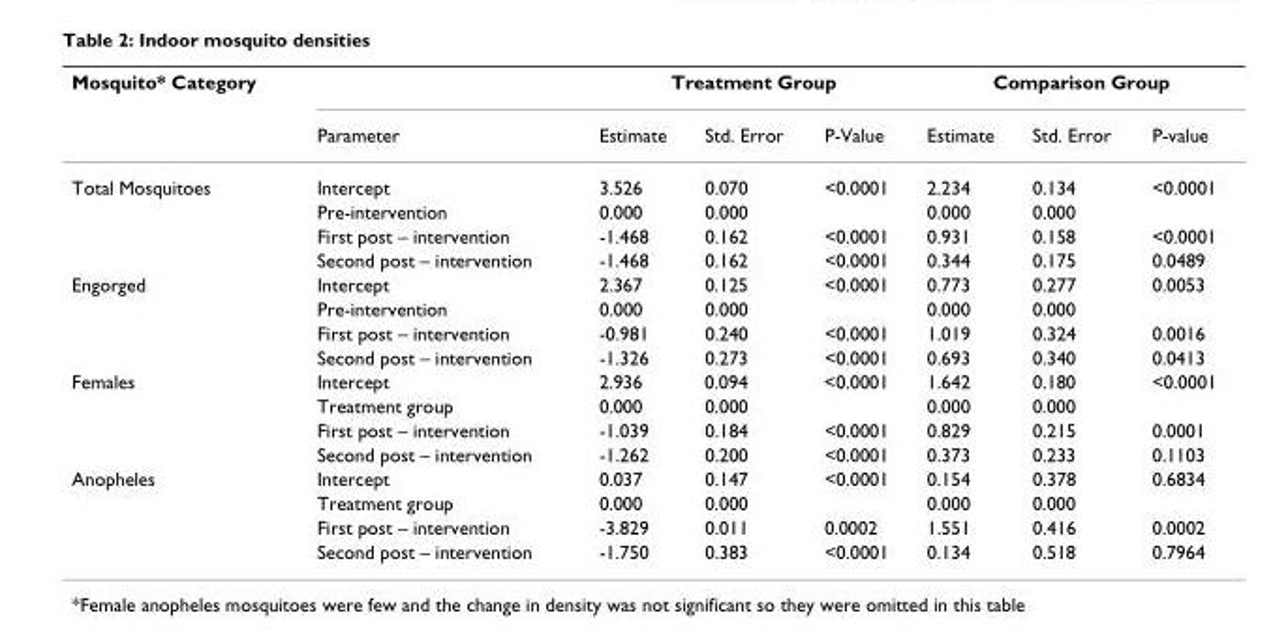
<table><thead><tr><td rowspan="2">Mosquito* Category</td><td rowspan="2">Parameter</td><td colspan="3">Treatment Group</td><td colspan="3">Comparison Group</td></tr><tr><td>Estimate</td><td>Std. Error</td><td>P-Value</td><td>Estimate</td><td>Std. Error</td><td>P-value</td></tr></thead><tbody><tr><td rowspan="4">Total Mosquitoes</td><td>Intercept</td><td>3.526</td><td>0.070</td><td>&lt;0.0001</td><td>2.234</td><td>0.134</td><td>&lt;0.0001</td></tr><tr><td>Pre-intervention</td><td>0.000</td><td>0.000</td><td></td><td>0.000</td><td>0.000</td><td></td></tr><tr><td>First post – intervention</td><td>-1.468</td><td>0.162</td><td>&lt;0.0001</td><td>0.931</td><td>0.158</td><td>&lt;0.0001</td></tr><tr><td>Second post – intervention</td><td>-1.468</td><td>0.162</td><td>&lt;0.0001</td><td>0.344</td><td>0.175</td><td>0.0489</td></tr><tr><td rowspan="4">Engorged</td><td>Intercept</td><td>2.367</td><td>0.125</td><td>&lt;0.0001</td><td>0.773</td><td>0.277</td><td>0.0053</td></tr><tr><td>Pre-intervention</td><td>0.000</td><td>0.000</td><td></td><td>0.000</td><td>0.000</td><td></td></tr><tr><td>First post – intervention</td><td>-0.981</td><td>0.240</td><td>&lt;0.0001</td><td>1.019</td><td>0.324</td><td>0.0016</td></tr><tr><td>Second post – intervention</td><td>-1.326</td><td>0.273</td><td>&lt;0.0001</td><td>0.693</td><td>0.340</td><td>0.0413</td></tr><tr><td rowspan="4">Females</td><td>Intercept</td><td>2.936</td><td>0.094</td><td>&lt;0.0001</td><td>1.642</td><td>0.180</td><td>&lt;0.0001</td></tr><tr><td>Treatment group</td><td>0.000</td><td>0.000</td><td></td><td>0.000</td><td>0.000</td><td></td></tr><tr><td>First post – intervention</td><td>-1.039</td><td>0.184</td><td>&lt;0.0001</td><td>0.829</td><td>0.215</td><td>0.0001</td></tr><tr><td>Second post – intervention</td><td>-1.262</td><td>0.200</td><td>&lt;0.0001</td><td>0.373</td><td>0.233</td><td>0.1103</td></tr><tr><td rowspan="4">Anopheles</td><td>Intercept</td><td>0.037</td><td>0.147</td><td>&lt;0.0001</td><td>0.154</td><td>0.378</td><td>0.6834</td></tr><tr><td>Treatment group</td><td>0.000</td><td>0.000</td><td></td><td>0.000</td><td>0.000</td><td></td></tr><tr><td>First post – intervention</td><td>-3.829</td><td>0.011</td><td>0.0002</td><td>1.551</td><td>0.416</td><td>0.0002</td></tr><tr><td>Second post – intervention</td><td>-1.750</td><td>0.383</td><td>&lt;0.0001</td><td>0.134</td><td>0.518</td><td>0.7964</td></tr></tbody></table>